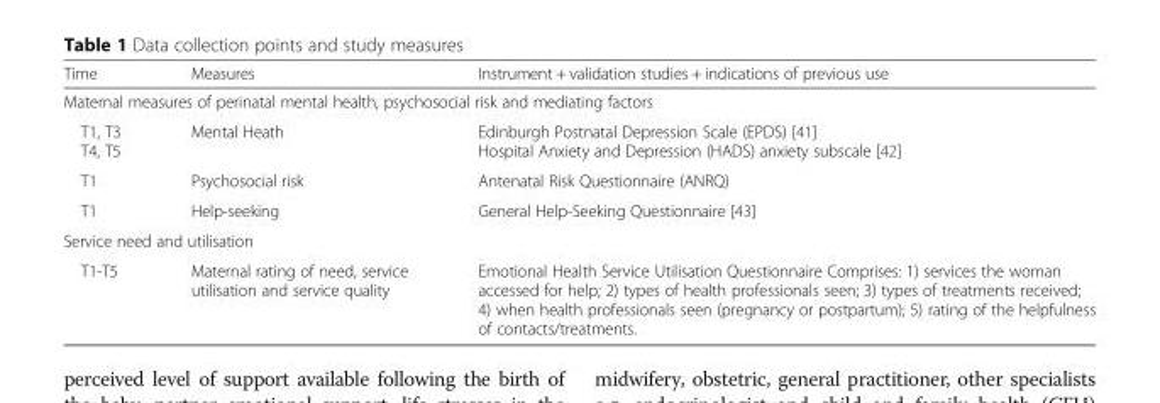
<table><thead><tr><td>Time</td><td>Measures</td><td>Instrument + validation studies + indications of previous use</td></tr></thead><tbody><tr><td colspan="3">Maternal measures of perinatal mental health, psychosocial risk and mediating factors</td></tr><tr><td>T1, T3 T4, T5</td><td>Mental Heath</td><td>Edinburgh Postnatal Depression Scale (EPDS) [41] Hospital Anxiety and Depression (HADS) anxiety subscale [42]</td></tr><tr><td>T1</td><td>Psychosocial risk</td><td>Antenatal Risk Questionnaire (ANRQ)</td></tr><tr><td>T1</td><td>Help-seeking</td><td>General Help-Seeking Questionnaire [43]</td></tr><tr><td colspan="3">Service need and utilisation</td></tr><tr><td>T1-T5</td><td>Maternal rating of need, service utilisation and service quality</td><td>Emotional Health Service Utilisation Questionnaire Comprises: 1) services the woman accessed for help; 2) types of health professionals seen; 3) types of treatments received; 4) when health professionals seen (pregnancy or postpartum); 5) rating of the helpfulness of contacts/treatments.</td></tr></tbody></table>